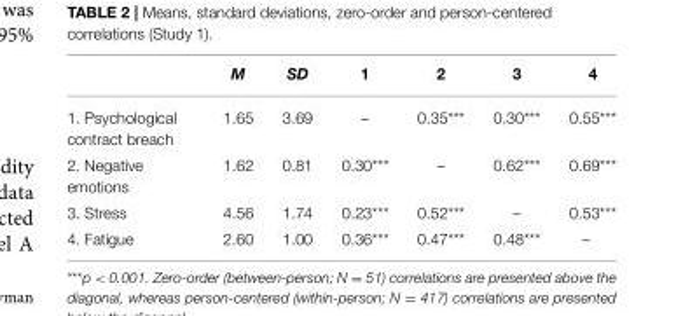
<table><thead><tr><td></td><td>M</td><td>SD</td><td>1</td><td>2</td><td>3</td><td>4</td></tr></thead><tbody><tr><td>1. Psychological contract breach</td><td>1.65</td><td>3.69</td><td>–</td><td>0.35***</td><td>0.30***</td><td>0.55***</td></tr><tr><td>2. Negative emotions</td><td>1.62</td><td>0.81</td><td>0.30***</td><td>–</td><td>0.62***</td><td>0.69***</td></tr><tr><td>3. Stress</td><td>4.56</td><td>1.74</td><td>0.23***</td><td>0.52***</td><td>–</td><td>0.53***</td></tr><tr><td>4. Fatigue</td><td>2.60</td><td>1.00</td><td>0.36***</td><td>0.47***</td><td>0.48***</td><td>–</td></tr></tbody></table>